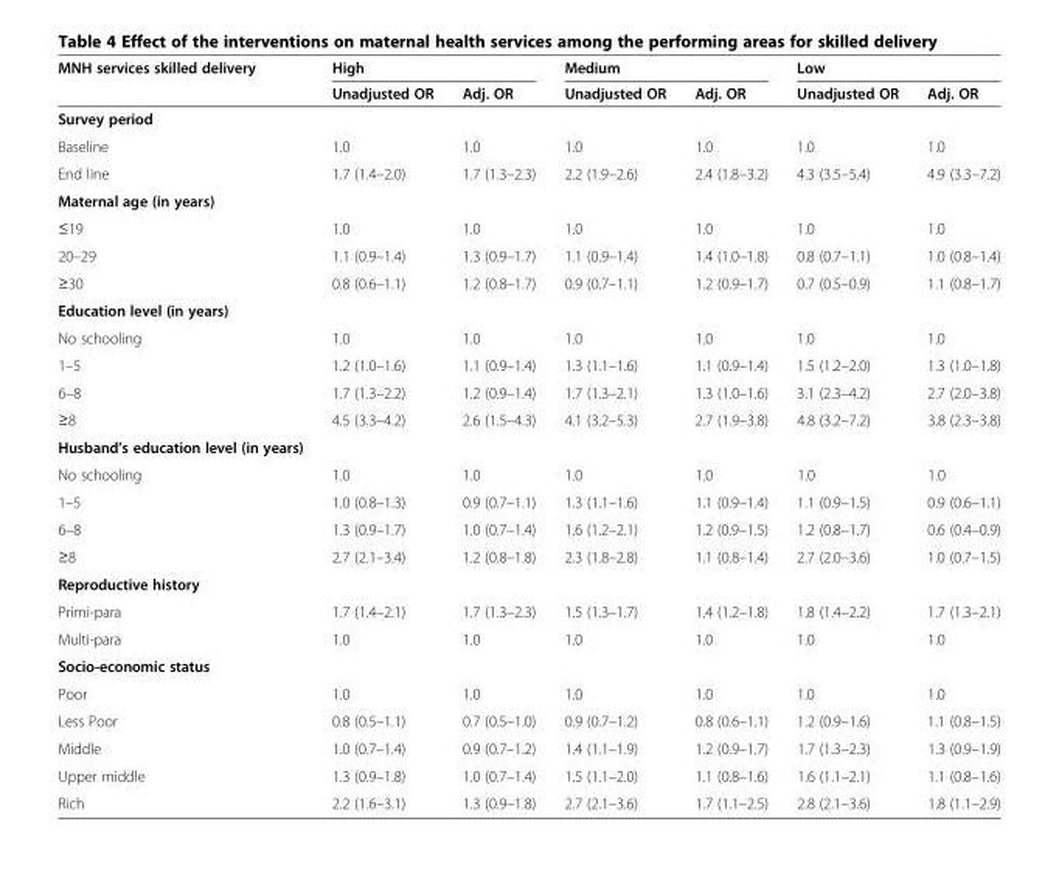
<table><thead><tr><td rowspan="2">MNH services skilled delivery</td><td colspan="2">High</td><td colspan="2">Medium</td><td colspan="2">Low</td></tr><tr><td>Unadjusted OR</td><td>Adj. OR</td><td>Unadjusted OR</td><td>Adj. OR</td><td>Unadjusted OR</td><td>Adj. OR</td></tr></thead><tbody><tr><td colspan="7">Survey period</td></tr><tr><td>Baseline</td><td>1.0</td><td>1.0</td><td>1.0</td><td>1.0</td><td>1.0</td><td>1.0</td></tr><tr><td>End line</td><td>1.7 (1.4–2.0)</td><td>1.7 (1.3–2.3)</td><td>2.2 (1.9–2.6)</td><td>2.4 (1.8–3.2)</td><td>4.3 (3.5–5.4)</td><td>4.9 (3.3–7.2)</td></tr><tr><td colspan="7">Maternal age (in years)</td></tr><tr><td>≤19</td><td>1.0</td><td>1.0</td><td>1.0</td><td>1.0</td><td>1.0</td><td>1.0</td></tr><tr><td>20–29</td><td>1.1 (0.9–1.4)</td><td>1.3 (0.9–1.7)</td><td>1.1 (0.9–1.4)</td><td>1.4 (1.0–1.8)</td><td>0.8 (0.7–1.1)</td><td>1.0 (0.8–1.4)</td></tr><tr><td>≥30</td><td>0.8 (0.6–1.1)</td><td>1.2 (0.8–1.7)</td><td>0.9 (0.7–1.1)</td><td>1.2 (0.9–1.7)</td><td>0.7 (0.5–0.9)</td><td>1.1 (0.8–1.7)</td></tr><tr><td colspan="7">Education level (in years)</td></tr><tr><td>No schooling</td><td>1.0</td><td>1.0</td><td>1.0</td><td>1.0</td><td>1.0</td><td>1.0</td></tr><tr><td>1–5</td><td>1.2 (1.0–1.6)</td><td>1.1 (0.9–1.4)</td><td>1.3 (1.1–1.6)</td><td>1.1 (0.9–1.4)</td><td>1.5 (1.2–2.0)</td><td>1.3 (1.0–1.8)</td></tr><tr><td>6–8</td><td>1.7 (1.3–2.2)</td><td>1.2 (0.9–1.4)</td><td>1.7 (1.3–2.1)</td><td>1.3 (1.0–1.6)</td><td>3.1 (2.3–4.2)</td><td>2.7 (2.0–3.8)</td></tr><tr><td>≥8</td><td>4.5 (3.3–4.2)</td><td>2.6 (1.5–4.3)</td><td>4.1 (3.2–5.3)</td><td>2.7 (1.9–3.8)</td><td>4.8 (3.2–7.2)</td><td>3.8 (2.3–3.8)</td></tr><tr><td colspan="7">Husband’s education level (in years)</td></tr><tr><td>No schooling</td><td>1.0</td><td>1.0</td><td>1.0</td><td>1.0</td><td>1.0</td><td>1.0</td></tr><tr><td>1–5</td><td>1.0 (0.8–1.3)</td><td>0.9 (0.7–1.1)</td><td>1.3 (1.1–1.6)</td><td>1.1 (0.9–1.4)</td><td>1.1 (0.9–1.5)</td><td>0.9 (0.6–1.1)</td></tr><tr><td>6–8</td><td>1.3 (0.9–1.7)</td><td>1.0 (0.7–1.4)</td><td>1.6 (1.2–2.1)</td><td>1.2 (0.9–1.5)</td><td>1.2 (0.8–1.7)</td><td>0.6 (0.4–0.9)</td></tr><tr><td>≥8</td><td>2.7 (2.1–3.4)</td><td>1.2 (0.8–1.8)</td><td>2.3 (1.8–2.8)</td><td>1.1 (0.8–1.4)</td><td>2.7 (2.0–3.6)</td><td>1.0 (0.7–1.5)</td></tr><tr><td colspan="7">Reproductive history</td></tr><tr><td>Primi-para</td><td>1.7 (1.4–2.1)</td><td>1.7 (1.3–2.3)</td><td>1.5 (1.3–1.7)</td><td>1.4 (1.2–1.8)</td><td>1.8 (1.4–2.2)</td><td>1.7 (1.3–2.1)</td></tr><tr><td>Multi-para</td><td>1.0</td><td>1.0</td><td>1.0</td><td>1.0</td><td>1.0</td><td>1.0</td></tr><tr><td colspan="7">Socio-economic status</td></tr><tr><td>Poor</td><td>1.0</td><td>1.0</td><td>1.0</td><td>1.0</td><td>1.0</td><td>1.0</td></tr><tr><td>Less Poor</td><td>0.8 (0.5–1.1)</td><td>0.7 (0.5–1.0)</td><td>0.9 (0.7–1.2)</td><td>0.8 (0.6–1.1)</td><td>1.2 (0.9–1.6)</td><td>1.1 (0.8–1.5)</td></tr><tr><td>Middle</td><td>1.0 (0.7–1.4)</td><td>0.9 (0.7–1.2)</td><td>1.4 (1.1–1.9)</td><td>1.2 (0.9–1.7)</td><td>1.7 (1.3–2.3)</td><td>1.3 (0.9–1.9)</td></tr><tr><td>Upper middle</td><td>1.3 (0.9–1.8)</td><td>1.0 (0.7–1.4)</td><td>1.5 (1.1–2.0)</td><td>1.1 (0.8–1.6)</td><td>1.6 (1.1–2.1)</td><td>1.1 (0.8–1.6)</td></tr><tr><td>Rich</td><td>2.2 (1.6–3.1)</td><td>1.3 (0.9–1.8)</td><td>2.7 (2.1–3.6)</td><td>1.7 (1.1–2.5)</td><td>2.8 (2.1–3.6)</td><td>1.8 (1.1–2.9)</td></tr></tbody></table>